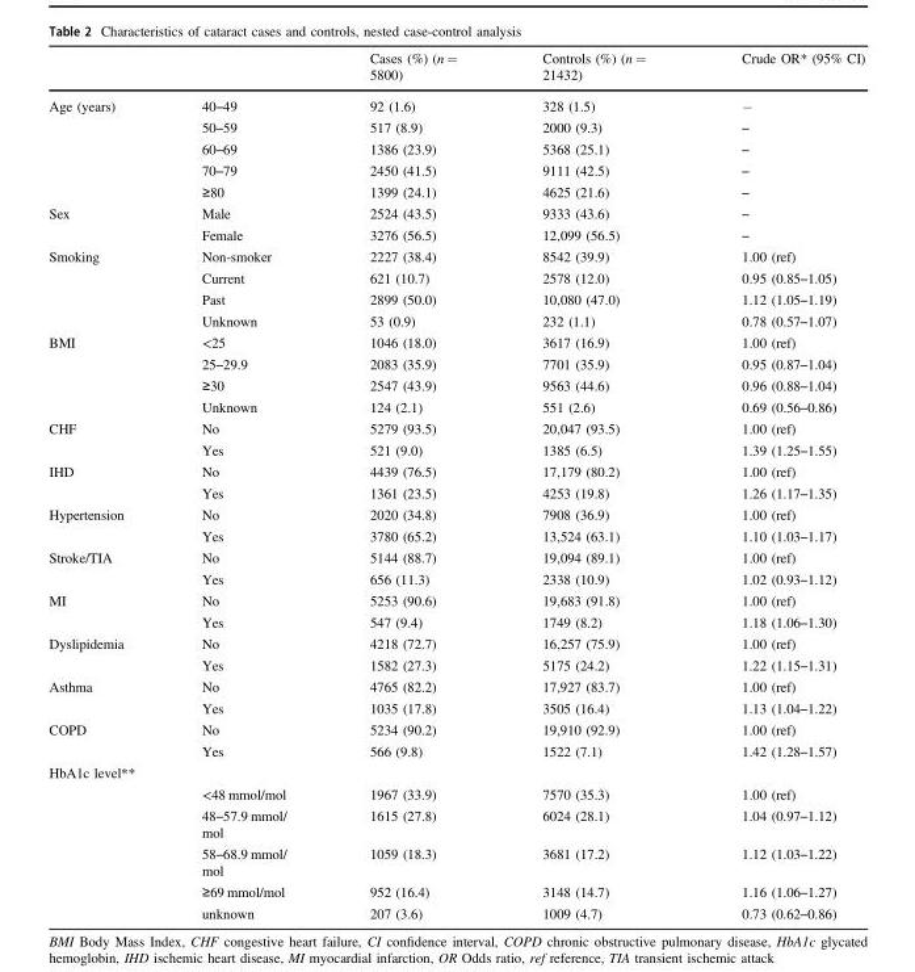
<table><thead><tr><td></td><td></td><td>Cases (%) (n = 5800)</td><td>Controls (%) (n = 21432)</td><td>Crude OR* (95% CI)</td></tr></thead><tbody><tr><td rowspan="5">Age (years)</td><td>40–49</td><td>92 (1.6)</td><td>328 (1.5)</td><td>−</td></tr><tr><td>50–59</td><td>517 (8.9)</td><td>2000 (9.3)</td><td>–</td></tr><tr><td>60–69</td><td>1386 (23.9)</td><td>5368 (25.1)</td><td>–</td></tr><tr><td>70–79</td><td>2450 (41.5)</td><td>9111 (42.5)</td><td>–</td></tr><tr><td>≥80</td><td>1399 (24.1)</td><td>4625 (21.6)</td><td>–</td></tr><tr><td rowspan="2">Sex</td><td>Male</td><td>2524 (43.5)</td><td>9333 (43.6)</td><td>–</td></tr><tr><td>Female</td><td>3276 (56.5)</td><td>12,099 (56.5)</td><td>–</td></tr><tr><td rowspan="4">Smoking</td><td>Non-smoker</td><td>2227 (38.4)</td><td>8542 (39.9)</td><td>1.00 (ref)</td></tr><tr><td>Current</td><td>621 (10.7)</td><td>2578 (12.0)</td><td>0.95 (0.85–1.05)</td></tr><tr><td>Past</td><td>2899 (50.0)</td><td>10,080 (47.0)</td><td>1.12 (1.05–1.19)</td></tr><tr><td>Unknown</td><td>53 (0.9)</td><td>232 (1.1)</td><td>0.78 (0.57–1.07)</td></tr><tr><td rowspan="4">BMI</td><td>&lt;25</td><td>1046 (18.0)</td><td>3617 (16.9)</td><td>1.00 (ref)</td></tr><tr><td>25–29.9</td><td>2083 (35.9)</td><td>7701 (35.9)</td><td>0.95 (0.87–1.04)</td></tr><tr><td>≥30</td><td>2547 (43.9)</td><td>9563 (44.6)</td><td>0.96 (0.88–1.04)</td></tr><tr><td>Unknown</td><td>124 (2.1)</td><td>551 (2.6)</td><td>0.69 (0.56–0.86)</td></tr><tr><td rowspan="2">CHF</td><td>No</td><td>5279 (93.5)</td><td>20,047 (93.5)</td><td>1.00 (ref)</td></tr><tr><td>Yes</td><td>521 (9.0)</td><td>1385 (6.5)</td><td>1.39 (1.25–1.55)</td></tr><tr><td rowspan="2">IHD</td><td>No</td><td>4439 (76.5)</td><td>17,179 (80.2)</td><td>1.00 (ref)</td></tr><tr><td>Yes</td><td>1361 (23.5)</td><td>4253 (19.8)</td><td>1.26 (1.17–1.35)</td></tr><tr><td rowspan="2">Hypertension</td><td>No</td><td>2020 (34.8)</td><td>7908 (36.9)</td><td>1.00 (ref)</td></tr><tr><td>Yes</td><td>3780 (65.2)</td><td>13,524 (63.1)</td><td>1.10 (1.03–1.17)</td></tr><tr><td rowspan="2">Stroke/TIA</td><td>No</td><td>5144 (88.7)</td><td>19,094 (89.1)</td><td>1.00 (ref)</td></tr><tr><td>Yes</td><td>656 (11.3)</td><td>2338 (10.9)</td><td>1.02 (0.93–1.12)</td></tr><tr><td rowspan="2">MI</td><td>No</td><td>5253 (90.6)</td><td>19,683 (91.8)</td><td>1.00 (ref)</td></tr><tr><td>Yes</td><td>547 (9.4)</td><td>1749 (8.2)</td><td>1.18 (1.06–1.30)</td></tr><tr><td rowspan="2">Dyslipidemia</td><td>No</td><td>4218 (72.7)</td><td>16,257 (75.9)</td><td>1.00 (ref)</td></tr><tr><td>Yes</td><td>1582 (27.3)</td><td>5175 (24.2)</td><td>1.22 (1.15–1.31)</td></tr><tr><td rowspan="2">Asthma</td><td>No</td><td>4765 (82.2)</td><td>17,927 (83.7)</td><td>1.00 (ref)</td></tr><tr><td>Yes</td><td>1035 (17.8)</td><td>3505 (16.4)</td><td>1.13 (1.04–1.22)</td></tr><tr><td rowspan="2">COPD</td><td>No</td><td>5234 (90.2)</td><td>19,910 (92.9)</td><td>1.00 (ref)</td></tr><tr><td>Yes</td><td>566 (9.8)</td><td>1522 (7.1)</td><td>1.42 (1.28–1.57)</td></tr><tr><td colspan="5">HbA1c level**</td></tr><tr><td></td><td>&lt;48 mmol/mol</td><td>1967 (33.9)</td><td>7570 (35.3)</td><td>1.00 (ref)</td></tr><tr><td></td><td>48–57.9 mmol/ mol</td><td>1615 (27.8)</td><td>6024 (28.1)</td><td>1.04 (0.97–1.12)</td></tr><tr><td></td><td>58–68.9 mmol/ mol</td><td>1059 (18.3)</td><td>3681 (17.2)</td><td>1.12 (1.03–1.22)</td></tr><tr><td></td><td>≥69 mmol/mol</td><td>952 (16.4)</td><td>3148 (14.7)</td><td>1.16 (1.06–1.27)</td></tr><tr><td></td><td>unknown</td><td>207 (3.6)</td><td>1009 (4.7)</td><td>0.73 (0.62–0.86)</td></tr></tbody></table>